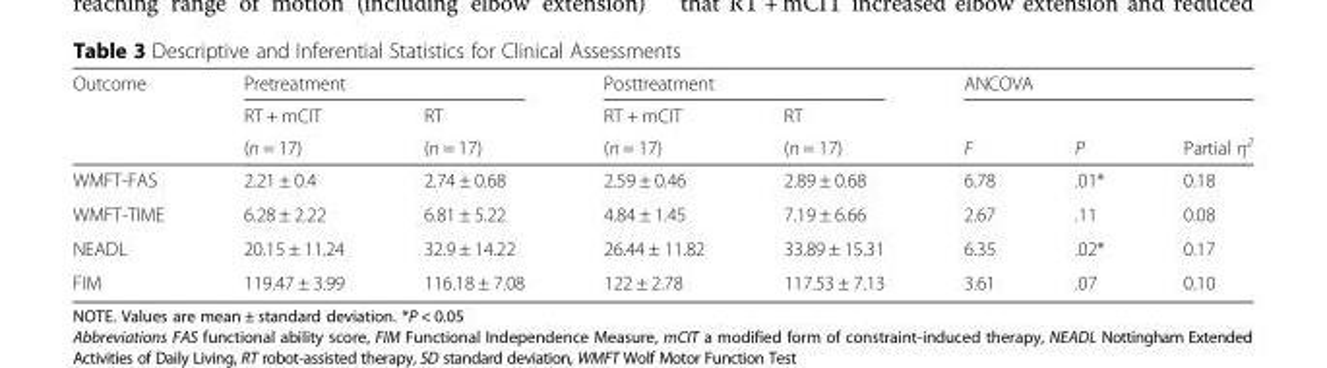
<table><thead><tr><td rowspan="3">Outcome</td><td colspan="2">Pretreatment</td><td colspan="2">Posttreatment</td><td colspan="3">ANCOVA</td></tr><tr><td rowspan="2">RT + mCIT (n = 17)</td><td rowspan="2">RT (n = 17)</td><td rowspan="2">RT + mCIT (n = 17)</td><td rowspan="2">RT (n = 17)</td><td rowspan="2">F</td><td rowspan="2">P</td><td rowspan="2">Partial η<sup>2</sup></td></tr><tr></tr></thead><tbody><tr><td>WMFT-FAS</td><td>2.21 ± 0.4</td><td>2.74 ± 0.68</td><td>2.59 ± 0.46</td><td>2.89 ± 0.68</td><td>6.78</td><td>.01*</td><td>0.18</td></tr><tr><td>WMFT-TIME</td><td>6.28 ± 2.22</td><td>6.81 ± 5.22</td><td>4.84 ± 1.45</td><td>7.19 ± 6.66</td><td>2.67</td><td>.11</td><td>0.08</td></tr><tr><td>NEADL</td><td>20.15 ± 11.24</td><td>32.9 ± 14.22</td><td>26.44 ± 11.82</td><td>33.89 ± 15.31</td><td>6.35</td><td>.02*</td><td>0.17</td></tr><tr><td>FIM</td><td>119.47 ± 3.99</td><td>116.18 ± 7.08</td><td>122 ± 2.78</td><td>117.53 ± 7.13</td><td>3.61</td><td>.07</td><td>0.10</td></tr></tbody></table>